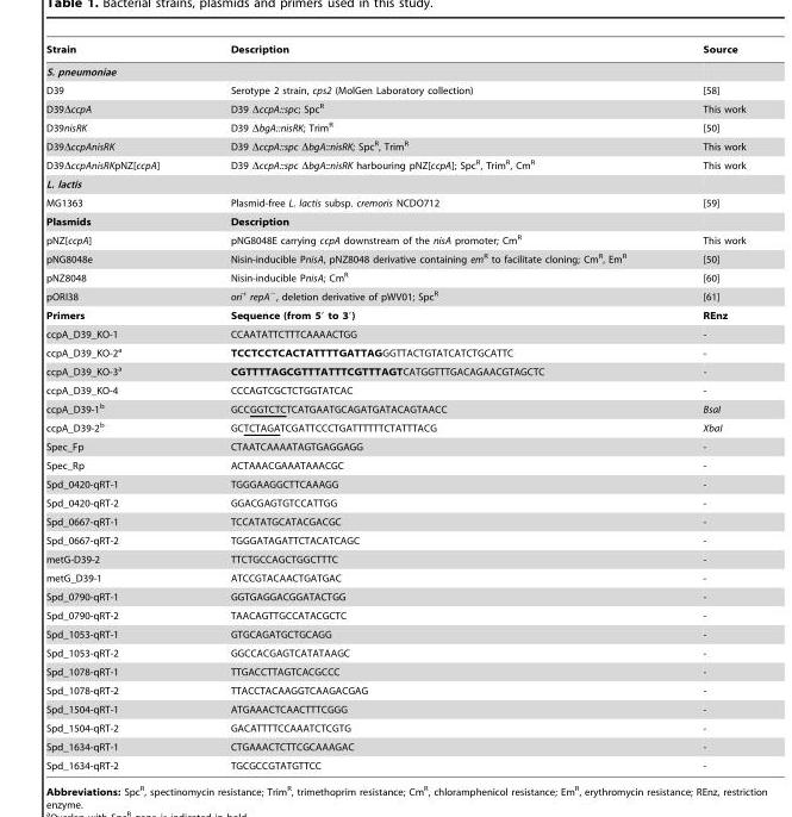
<table><thead><tr><td>Strain</td><td>Description</td><td>Source</td></tr></thead><tbody><tr><td colspan="3">S. pneumoniae</td></tr><tr><td>D39</td><td>Serotype 2 strain, cps2 (MolGen Laboratory collection)</td><td>[58]</td></tr><tr><td>D39ΔccpA</td><td>D39 ΔccpA::spc; Spc<sup>R</sup></td><td>This work</td></tr><tr><td>D39nisRK</td><td>D39 ΔbgA::nisRK; Trim<sup>R</sup></td><td>[50]</td></tr><tr><td>D39ΔccpAnisRK</td><td>D39 ΔccpA::spc ΔbgA::nisRK; Spc<sup>R</sup>, Trim<sup>R</sup></td><td>This work</td></tr><tr><td>D39ΔccpAnisRKpNZ[ccpA]</td><td>D39 ΔccpA::spc ΔbgA::nisRK harbouring pNZ[ccpA]; Spc<sup>R</sup>, Trim<sup>R</sup>, Cm<sup>R</sup></td><td>This work</td></tr><tr><td colspan="3">L. lactis</td></tr><tr><td>MG1363</td><td>Plasmid-free L. lactis subsp. cremoris NCDO712</td><td>[59]</td></tr><tr><td>Plasmids</td><td>Description</td><td></td></tr><tr><td>pNZ[ccpA]</td><td>pNG8048E carrying ccpA downstream of the nisA promoter; Cm<sup>R</sup></td><td>This work</td></tr><tr><td>pNG8048e</td><td>Nisin-inducible PnisA, pNZ8048 derivative containing em<sup>R</sup> to facilitate cloning; Cm<sup>R</sup>, Em<sup>R</sup></td><td>[50]</td></tr><tr><td>pNZ8048</td><td>Nisin-inducible PnisA; Cm<sup>R</sup></td><td>[60]</td></tr><tr><td>pORI38</td><td>ori<sup>+</sup> repA<sup>−</sup>, deletion derivative of pWV01; Spc<sup>R</sup></td><td>[61]</td></tr><tr><td>Primers</td><td>Sequence (from 5′ to 3′)</td><td>REnz</td></tr><tr><td>ccpA_D39_KO-1</td><td>CCAATATTCTTTCAAAACTGG</td><td>-</td></tr><tr><td>ccpA_D39_KO-2<sup>a</sup></td><td>TCCTCCTCACTATTTTGATTAGGGTTACTGTATCATCTGCATTC</td><td>-</td></tr><tr><td>ccpA_D39_KO-3<sup>a</sup></td><td>CGTTTTAGCGTTTATTTCGTTTAGTCATGGTTTGACAGAACGTAGCTC</td><td>-</td></tr><tr><td>ccpA_D39_KO-4</td><td>CCCAGTCGCTCTGGTATCAC</td><td>-</td></tr><tr><td>ccpA_D39-1<sup>b</sup></td><td>GCCGGTCTCTCATGAATGCAGATGATACAGTAACC</td><td>BsaI</td></tr><tr><td>ccpA_D39-2<sup>b</sup></td><td>GCTCTAGATCGATTCCCTGATTTTTTCTATTTACG</td><td>XbaI</td></tr><tr><td>Spec_Fp</td><td>CTAATCAAAATAGTGAGGAGG</td><td>-</td></tr><tr><td>Spec_Rp</td><td>ACTAAACGAAATAAACGC</td><td>-</td></tr><tr><td>Spd_0420-qRT-1</td><td>TGGGAAGGCTTCAAAGG</td><td>-</td></tr><tr><td>Spd_0420-qRT-2</td><td>GGACGAGTGTCCATTGG</td><td>-</td></tr><tr><td>Spd_0667-qRT-1</td><td>TCCATATGCATACGACGC</td><td>-</td></tr><tr><td>Spd_0667-qRT-2</td><td>TGGGATAGATTCTACATCAGC</td><td>-</td></tr><tr><td>metG-D39-2</td><td>TTCTGCCAGCTGGCTTTC</td><td>-</td></tr><tr><td>metG_D39-1</td><td>ATCCGTACAACTGATGAC</td><td>-</td></tr><tr><td>Spd_0790-qRT-1</td><td>GGTGAGGACGGATACTGG</td><td>-</td></tr><tr><td>Spd_0790-qRT-2</td><td>TAACAGTTGCCATACGCTC</td><td>-</td></tr><tr><td>Spd_1053-qRT-1</td><td>GTGCAGATGCTGCAGG</td><td>-</td></tr><tr><td>Spd_1053-qRT-2</td><td>GGCCACGAGTCATATAAGC</td><td>-</td></tr><tr><td>Spd_1078-qRT-1</td><td>TTGACCTTAGTCACGCCC</td><td>-</td></tr><tr><td>Spd_1078-qRT-2</td><td>TTACCTACAAGGTCAAGACGAG</td><td>-</td></tr><tr><td>Spd_1504-qRT-1</td><td>ATGAAACTCAACTTTCGGG</td><td>-</td></tr><tr><td>Spd_1504-qRT-2</td><td>GACATTTTCCAAATCTCGTG</td><td>-</td></tr><tr><td>Spd_1634-qRT-1</td><td>CTGAAACTCTTCGCAAAGAC</td><td>-</td></tr><tr><td>Spd_1634-qRT-2</td><td>TGCGCCGTATGTTCC</td><td>-</td></tr></tbody></table>